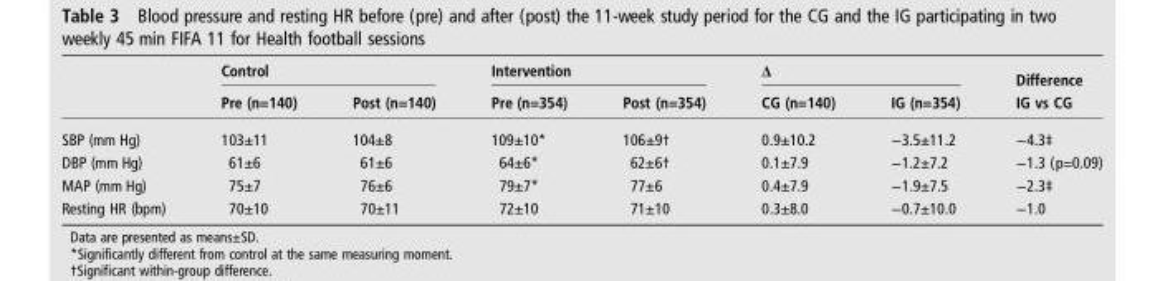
<table><thead><tr><td rowspan="2"></td><td colspan="2">Control</td><td colspan="2">Intervention</td><td colspan="2">Δ</td><td rowspan="2">Difference IG vs CG</td></tr><tr><td>Pre (n=140)</td><td>Post (n=140)</td><td>Pre (n=354)</td><td>Post (n=354)</td><td>CG (n=140)</td><td>IG (n=354)</td></tr></thead><tbody><tr><td>SBP (mm Hg)</td><td>103±11</td><td>104±8</td><td>109±10*</td><td>106±9†</td><td>0.9±10.2</td><td>−3.5±11.2</td><td>−4.3‡</td></tr><tr><td>DBP (mm Hg)</td><td>61±6</td><td>61±6</td><td>64±6*</td><td>62±6†</td><td>0.1±7.9</td><td>−1.2±7.2</td><td>−1.3 (p=0.09)</td></tr><tr><td>MAP (mm Hg)</td><td>75±7</td><td>76±6</td><td>79±7*</td><td>77±6</td><td>0.4±7.9</td><td>−1.9±7.5</td><td>−2.3‡</td></tr><tr><td>Resting HR (bpm)</td><td>70±10</td><td>70±11</td><td>72±10</td><td>71±10</td><td>0.3±8.0</td><td>−0.7±10.0</td><td>−1.0</td></tr></tbody></table>